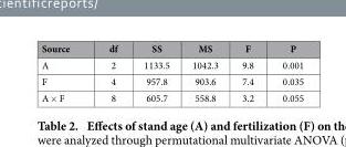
<table><thead><tr><td>Source</td><td>df</td><td>SS</td><td>MS</td><td>F</td><td>P</td></tr></thead><tbody><tr><td>A</td><td>2</td><td>1133.5</td><td>1042.3</td><td>9.8</td><td>0.001</td></tr><tr><td>F</td><td>4</td><td>957.8</td><td>903.6</td><td>7.4</td><td>0.035</td></tr><tr><td>A × F</td><td>8</td><td>605.7</td><td>558.8</td><td>3.2</td><td>0.055</td></tr></tbody></table>